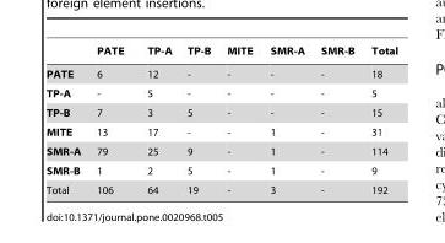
<table><thead><tr><td></td><td>PATE</td><td>TP-A</td><td>TP-B</td><td>MITE</td><td>SMR-A</td><td>SMR-B</td><td>Total</td></tr></thead><tbody><tr><td>PATE</td><td>6</td><td>12</td><td>-</td><td>-</td><td>-</td><td>-</td><td>18</td></tr><tr><td>TP-A</td><td>-</td><td>5</td><td>-</td><td>-</td><td>-</td><td>-</td><td>5</td></tr><tr><td>TP-B</td><td>7</td><td>3</td><td>5</td><td>-</td><td>-</td><td>-</td><td>15</td></tr><tr><td>MITE</td><td>13</td><td>17</td><td>-</td><td>-</td><td>1</td><td>-</td><td>31</td></tr><tr><td>SMR-A</td><td>79</td><td>25</td><td>9</td><td>-</td><td>1</td><td>-</td><td>114</td></tr><tr><td>SMR-B</td><td>1</td><td>2</td><td>5</td><td>-</td><td>1</td><td>-</td><td>9</td></tr><tr><td>Total</td><td>106</td><td>64</td><td>19</td><td>-</td><td>3</td><td>-</td><td>192</td></tr></tbody></table>